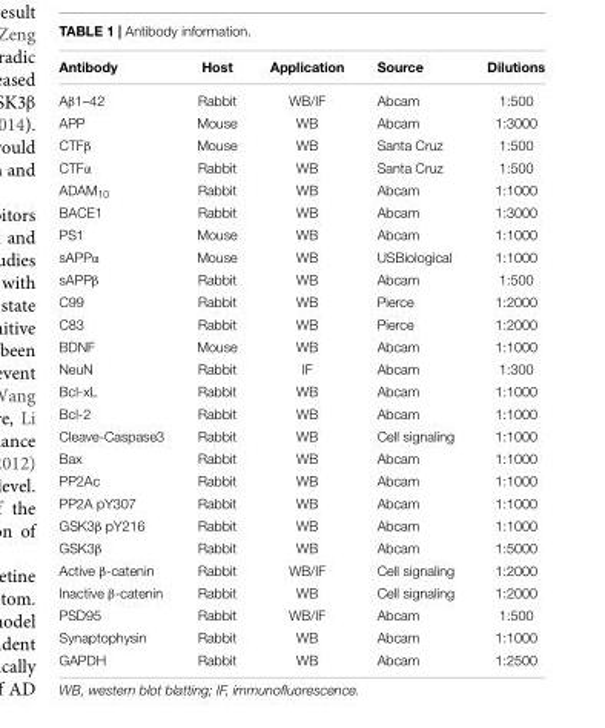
<table><thead><tr><td>Antibody</td><td>Host</td><td>Application</td><td>Source</td><td>Dilutions</td></tr></thead><tbody><tr><td>Aβ1–42</td><td>Rabbit</td><td>WB/IF</td><td>Abcam</td><td>1:500</td></tr><tr><td>APP</td><td>Mouse</td><td>WB</td><td>Abcam</td><td>1:3000</td></tr><tr><td>CTFβ</td><td>Mouse</td><td>WB</td><td>Santa Cruz</td><td>1:500</td></tr><tr><td>CTFα</td><td>Rabbit</td><td>WB</td><td>Santa Cruz</td><td>1:500</td></tr><tr><td>ADAM<sub>10</sub></td><td>Rabbit</td><td>WB</td><td>Abcam</td><td>1:1000</td></tr><tr><td>BACE1</td><td>Rabbit</td><td>WB</td><td>Abcam</td><td>1:3000</td></tr><tr><td>PS1</td><td>Mouse</td><td>WB</td><td>Abcam</td><td>1:1000</td></tr><tr><td>sAPPα</td><td>Mouse</td><td>WB</td><td>USBiological</td><td>1:1000</td></tr><tr><td>sAPPβ</td><td>Rabbit</td><td>WB</td><td>Abcam</td><td>1:500</td></tr><tr><td>C99</td><td>Rabbit</td><td>WB</td><td>Pierce</td><td>1:2000</td></tr><tr><td>C83</td><td>Rabbit</td><td>WB</td><td>Pierce</td><td>1:2000</td></tr><tr><td>BDNF</td><td>Mouse</td><td>WB</td><td>Abcam</td><td>1:1000</td></tr><tr><td>NeuN</td><td>Rabbit</td><td>IF</td><td>Abcam</td><td>1:300</td></tr><tr><td>Bcl-xL</td><td>Rabbit</td><td>WB</td><td>Abcam</td><td>1:1000</td></tr><tr><td>Bcl-2</td><td>Rabbit</td><td>WB</td><td>Abcam</td><td>1:1000</td></tr><tr><td>Cleave-Caspase3</td><td>Rabbit</td><td>WB</td><td>Cell signaling</td><td>1:1000</td></tr><tr><td>Bax</td><td>Rabbit</td><td>WB</td><td>Abcam</td><td>1:1000</td></tr><tr><td>PP2Ac</td><td>Rabbit</td><td>WB</td><td>Abcam</td><td>1:1000</td></tr><tr><td>PP2A pY307</td><td>Rabbit</td><td>WB</td><td>Abcam</td><td>1:1000</td></tr><tr><td>GSK3β pY216</td><td>Rabbit</td><td>WB</td><td>Abcam</td><td>1:1000</td></tr><tr><td>GSK3β</td><td>Rabbit</td><td>WB</td><td>Abcam</td><td>1:5000</td></tr><tr><td>Active β-catenin</td><td>Rabbit</td><td>WB/IF</td><td>Cell signaling</td><td>1:2000</td></tr><tr><td>Inactive β-catenin</td><td>Rabbit</td><td>WB</td><td>Cell signaling</td><td>1:2000</td></tr><tr><td>PSD95</td><td>Rabbit</td><td>WB/IF</td><td>Abcam</td><td>1:500</td></tr><tr><td>Synaptophysin</td><td>Rabbit</td><td>WB</td><td>Abcam</td><td>1:1000</td></tr><tr><td>GAPDH</td><td>Rabbit</td><td>WB</td><td>Abcam</td><td>1:2500</td></tr></tbody></table>